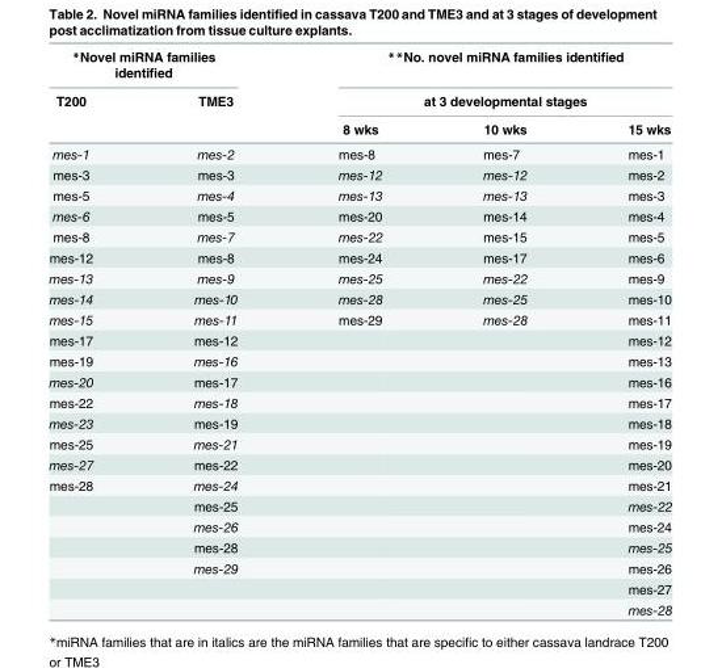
<table><thead><tr><td colspan="2">*Novel miRNA families identified</td><td rowspan="2" colspan="3">**No. novel miRNA families identified at 3 developmental stages</td></tr><tr><td rowspan="2">T200</td><td rowspan="2">TME3</td></tr><tr><td>8 wks</td><td>10 wks</td><td>15 wks</td></tr></thead><tbody><tr><td>mes-1</td><td>mes-2</td><td>mes-8</td><td>mes-7</td><td>mes-1</td></tr><tr><td>mes-3</td><td>mes-3</td><td>mes-12</td><td>mes-12</td><td>mes-2</td></tr><tr><td>mes-5</td><td>mes-4</td><td>mes-13</td><td>mes-13</td><td>mes-3</td></tr><tr><td>mes-6</td><td>mes-5</td><td>mes-20</td><td>mes-14</td><td>mes-4</td></tr><tr><td>mes-8</td><td>mes-7</td><td>mes-22</td><td>mes-15</td><td>mes-5</td></tr><tr><td>mes-12</td><td>mes-8</td><td>mes-24</td><td>mes-17</td><td>mes-6</td></tr><tr><td>mes-13</td><td>mes-9</td><td>mes-25</td><td>mes-22</td><td>mes-9</td></tr><tr><td>mes-14</td><td>mes-10</td><td>mes-28</td><td>mes-25</td><td>mes-10</td></tr><tr><td>mes-15</td><td>mes-11</td><td>mes-29</td><td>mes-28</td><td>mes-11</td></tr><tr><td>mes-17</td><td>mes-12</td><td></td><td></td><td>mes-12</td></tr><tr><td>mes-19</td><td>mes-16</td><td></td><td></td><td>mes-13</td></tr><tr><td>mes-20</td><td>mes-17</td><td></td><td></td><td>mes-16</td></tr><tr><td>mes-22</td><td>mes-18</td><td></td><td></td><td>mes-17</td></tr><tr><td>mes-23</td><td>mes-19</td><td></td><td></td><td>mes-18</td></tr><tr><td>mes-25</td><td>mes-21</td><td></td><td></td><td>mes-19</td></tr><tr><td>mes-27</td><td>mes-22</td><td></td><td></td><td>mes-20</td></tr><tr><td rowspan="7">mes-28</td><td>mes-24</td><td></td><td></td><td>mes-21</td></tr><tr><td>mes-25</td><td></td><td></td><td>mes-22</td></tr><tr><td>mes-26</td><td></td><td></td><td>mes-24</td></tr><tr><td>mes-28</td><td></td><td></td><td>mes-25</td></tr><tr><td>mes-29</td><td></td><td></td><td>mes-26</td></tr><tr><td></td><td></td><td></td><td>mes-27</td></tr><tr><td></td><td></td><td></td><td>mes-28</td></tr></tbody></table>